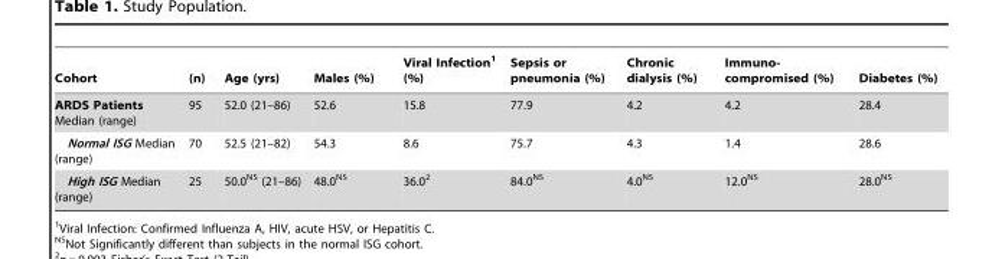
<table><thead><tr><td>Cohort</td><td>(n)</td><td>Age (yrs)</td><td>Males (%)</td><td>Viral Infection<sup>1</sup> (%)</td><td>Sepsis or pneumonia (%)</td><td>Chronic dialysis (%)</td><td>Immuno- compromised (%)</td><td>Diabetes (%)</td></tr></thead><tbody><tr><td>ARDS Patients Median (range)</td><td>95</td><td>52.0 (21–86)</td><td>52.6</td><td>15.8</td><td>77.9</td><td>4.2</td><td>4.2</td><td>28.4</td></tr><tr><td>Normal ISG Median (range)</td><td>70</td><td>52.5 (21–82)</td><td>54.3</td><td>8.6</td><td>75.7</td><td>4.3</td><td>1.4</td><td>28.6</td></tr><tr><td>High ISG Median (range)</td><td>25</td><td>50.0<sup>NS</sup> (21–86)</td><td>48.0<sup>NS</sup></td><td>36.0<sup>2</sup></td><td>84.0<sup>NS</sup></td><td>4.0<sup>NS</sup></td><td>12.0<sup>NS</sup></td><td>28.0<sup>NS</sup></td></tr></tbody></table>